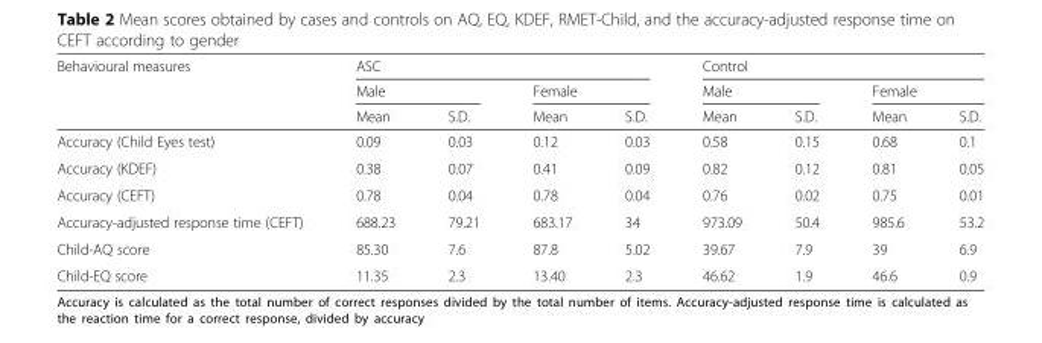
<table><thead><tr><td rowspan="3">Behavioural measures</td><td colspan="4">ASC</td><td colspan="4">Control</td></tr><tr><td colspan="2">Male</td><td colspan="2">Female</td><td colspan="2">Male</td><td colspan="2">Female</td></tr><tr><td>Mean</td><td>S.D.</td><td>Mean</td><td>S.D.</td><td>Mean</td><td>S.D.</td><td>Mean</td><td>S.D.</td></tr></thead><tbody><tr><td>Accuracy (Child Eyes test)</td><td>0.09</td><td>0.03</td><td>0.12</td><td>0.03</td><td>0.58</td><td>0.15</td><td>0.68</td><td>0.1</td></tr><tr><td>Accuracy (KDEF)</td><td>0.38</td><td>0.07</td><td>0.41</td><td>0.09</td><td>0.82</td><td>0.12</td><td>0.81</td><td>0.05</td></tr><tr><td>Accuracy (CEFT)</td><td>0.78</td><td>0.04</td><td>0.78</td><td>0.04</td><td>0.76</td><td>0.02</td><td>0.75</td><td>0.01</td></tr><tr><td>Accuracy-adjusted response time (CEFT)</td><td>688.23</td><td>79.21</td><td>683.17</td><td>34</td><td>973.09</td><td>50.4</td><td>985.6</td><td>53.2</td></tr><tr><td>Child-AQ score</td><td>85.30</td><td>7.6</td><td>87.8</td><td>5.02</td><td>39.67</td><td>7.9</td><td>39</td><td>6.9</td></tr><tr><td>Child-EQ score</td><td>11.35</td><td>2.3</td><td>13.40</td><td>2.3</td><td>46.62</td><td>1.9</td><td>46.6</td><td>0.9</td></tr></tbody></table>